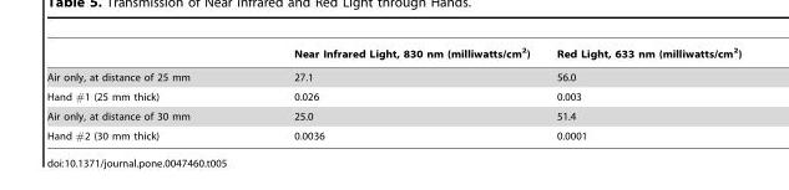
<table><thead><tr><td></td><td>Near Infrared Light, 830 nm (milliwatts/cm<sup>2</sup>)</td><td>Red Light, 633 nm (milliwatts/cm<sup>2</sup>)</td></tr></thead><tbody><tr><td>Air only, at distance of 25 mm</td><td>27.1</td><td>56.0</td></tr><tr><td>Hand #1 (25 mm thick)</td><td>0.026</td><td>0.003</td></tr><tr><td>Air only, at distance of 30 mm</td><td>25.0</td><td>51.4</td></tr><tr><td>Hand #2 (30 mm thick)</td><td>0.0036</td><td>0.0001</td></tr></tbody></table>